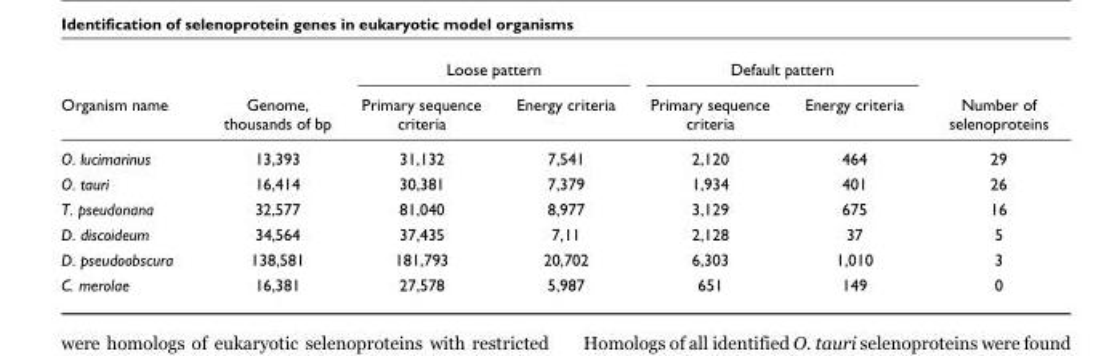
<table><thead><tr><td rowspan="2">Organism name</td><td rowspan="2">Genome, thousands of bp</td><td colspan="2">Loose pattern</td><td colspan="2">Default pattern</td><td rowspan="2">Number of selenoproteins</td></tr><tr><td>Primary sequence criteria</td><td>Energy criteria</td><td>Primary sequence criteria</td><td>Energy criteria</td></tr></thead><tbody><tr><td>O. lucimarinus</td><td>13,393</td><td>31,132</td><td>7,541</td><td>2,120</td><td>464</td><td>29</td></tr><tr><td>O. tauri</td><td>16,414</td><td>30,381</td><td>7,379</td><td>1,934</td><td>401</td><td>26</td></tr><tr><td>T. pseudonana</td><td>32,577</td><td>81,040</td><td>8,977</td><td>3,129</td><td>675</td><td>16</td></tr><tr><td>D. discoideum</td><td>34,564</td><td>37,435</td><td>7,11</td><td>2,128</td><td>37</td><td>5</td></tr><tr><td>D. pseudoobscura</td><td>138,581</td><td>181,793</td><td>20,702</td><td>6,303</td><td>1,010</td><td>3</td></tr><tr><td>C. merolae</td><td>16,381</td><td>27,578</td><td>5,987</td><td>651</td><td>149</td><td>0</td></tr></tbody></table>